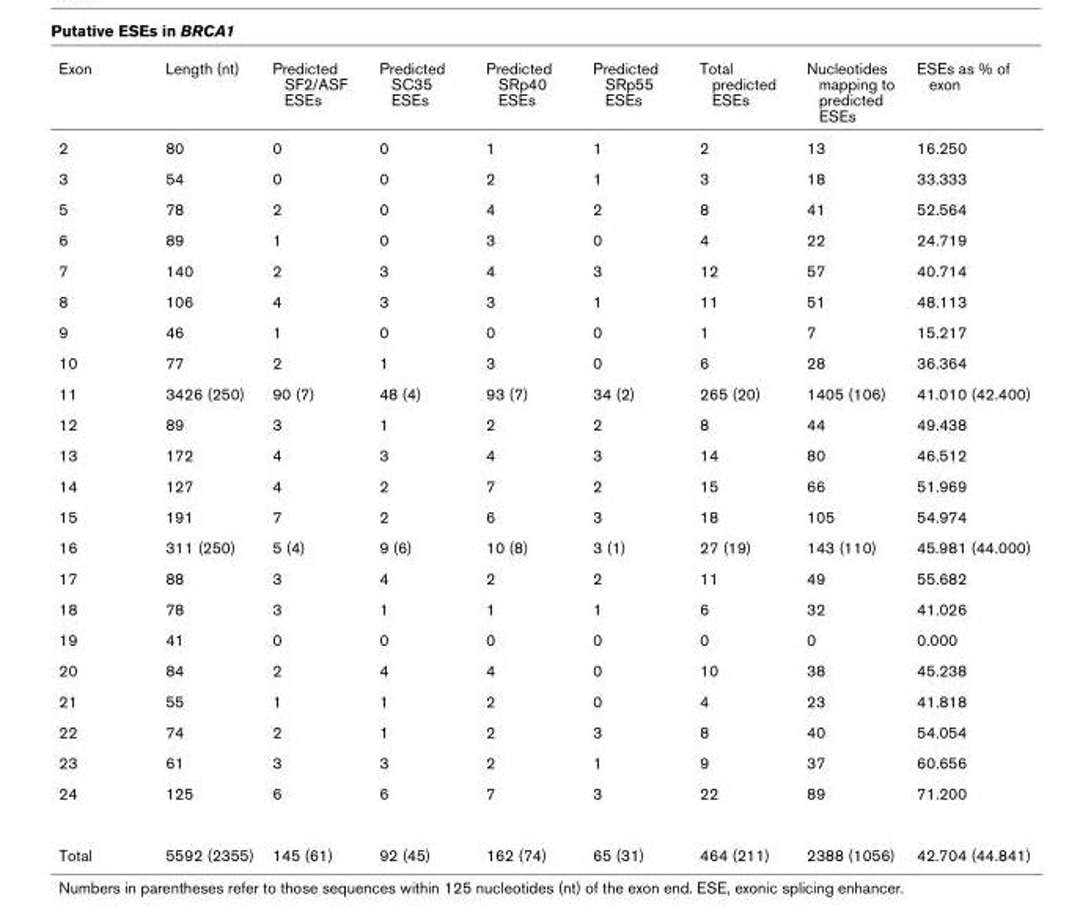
<table><thead><tr><td>Exon</td><td>Length (nt)</td><td>Predicted SF2/ASF ESEs</td><td>Predicted SC35 ESEs</td><td>Predicted SRp40 ESEs</td><td>Predicted SRp55 ESEs</td><td>Total predicted ESEs</td><td>Nucleotides mapping to predicted ESEs</td><td>ESEs as % of exon</td></tr></thead><tbody><tr><td>2</td><td>80</td><td>0</td><td>0</td><td>1</td><td>1</td><td>2</td><td>13</td><td>16.250</td></tr><tr><td>3</td><td>54</td><td>0</td><td>0</td><td>2</td><td>1</td><td>3</td><td>18</td><td>33.333</td></tr><tr><td>5</td><td>78</td><td>2</td><td>0</td><td>4</td><td>2</td><td>8</td><td>41</td><td>52.564</td></tr><tr><td>6</td><td>89</td><td>1</td><td>0</td><td>3</td><td>0</td><td>4</td><td>22</td><td>24.719</td></tr><tr><td>7</td><td>140</td><td>2</td><td>3</td><td>4</td><td>3</td><td>12</td><td>57</td><td>40.714</td></tr><tr><td>8</td><td>106</td><td>4</td><td>3</td><td>3</td><td>1</td><td>11</td><td>51</td><td>48.113</td></tr><tr><td>9</td><td>46</td><td>1</td><td>0</td><td>0</td><td>0</td><td>1</td><td>7</td><td>15.217</td></tr><tr><td>10</td><td>77</td><td>2</td><td>1</td><td>3</td><td>0</td><td>6</td><td>28</td><td>36.364</td></tr><tr><td>11</td><td>3426 (250)</td><td>90 (7)</td><td>48 (4)</td><td>93 (7)</td><td>34 (2)</td><td>265 (20)</td><td>1405 (106)</td><td>41.010 (42.400)</td></tr><tr><td>12</td><td>89</td><td>3</td><td>1</td><td>2</td><td>2</td><td>8</td><td>44</td><td>49.438</td></tr><tr><td>13</td><td>172</td><td>4</td><td>3</td><td>4</td><td>3</td><td>14</td><td>80</td><td>46.512</td></tr><tr><td>14</td><td>127</td><td>4</td><td>2</td><td>7</td><td>2</td><td>15</td><td>66</td><td>51.969</td></tr><tr><td>15</td><td>191</td><td>7</td><td>2</td><td>6</td><td>3</td><td>18</td><td>105</td><td>54.974</td></tr><tr><td>16</td><td>311 (250)</td><td>5 (4)</td><td>9 (6)</td><td>10 (8)</td><td>3 (1)</td><td>27 (19)</td><td>143 (110)</td><td>45.981 (44.000)</td></tr><tr><td>17</td><td>88</td><td>3</td><td>4</td><td>2</td><td>2</td><td>11</td><td>49</td><td>55.682</td></tr><tr><td>18</td><td>78</td><td>3</td><td>1</td><td>1</td><td>1</td><td>6</td><td>32</td><td>41.026</td></tr><tr><td>19</td><td>41</td><td>0</td><td>0</td><td>0</td><td>0</td><td>0</td><td>0</td><td>0.000</td></tr><tr><td>20</td><td>84</td><td>2</td><td>4</td><td>4</td><td>0</td><td>10</td><td>38</td><td>45.238</td></tr><tr><td>21</td><td>55</td><td>1</td><td>1</td><td>2</td><td>0</td><td>4</td><td>23</td><td>41.818</td></tr><tr><td>22</td><td>74</td><td>2</td><td>1</td><td>2</td><td>3</td><td>8</td><td>40</td><td>54.054</td></tr><tr><td>23</td><td>61</td><td>3</td><td>3</td><td>2</td><td>1</td><td>9</td><td>37</td><td>60.656</td></tr><tr><td>24</td><td>125</td><td>6</td><td>6</td><td>7</td><td>3</td><td>22</td><td>89</td><td>71.200</td></tr><tr><td>Total</td><td>5592 (2355)</td><td>145 (61)</td><td>92 (45)</td><td>162 (74)</td><td>65 (31)</td><td>464 (211)</td><td>2388 (1056)</td><td>42.704 (44.841)</td></tr></tbody></table>